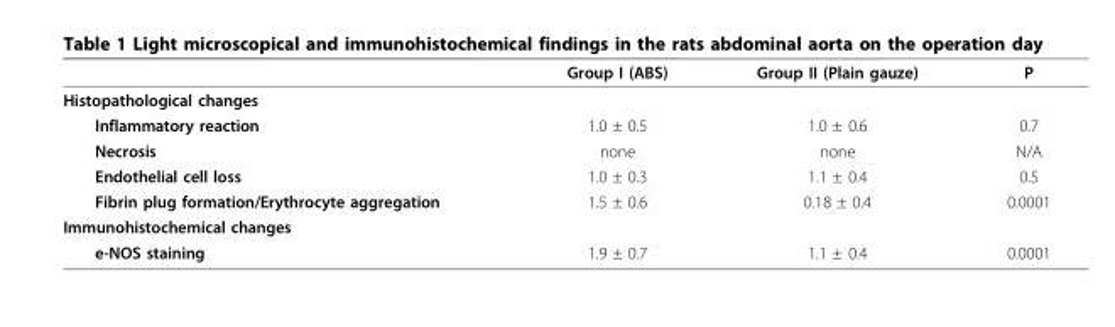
<table><thead><tr><td></td><td>Group I (ABS)</td><td>Group II (Plain gauze)</td><td>P</td></tr></thead><tbody><tr><td colspan="4">Histopathological changes</td></tr><tr><td>Inflammatory reaction</td><td>1.0 ± 0.5</td><td>1.0 ± 0.6</td><td>0.7</td></tr><tr><td>Necrosis</td><td>none</td><td>none</td><td>N/A</td></tr><tr><td>Endothelial cell loss</td><td>1.0 ± 0.3</td><td>1.1 ± 0.4</td><td>0.5</td></tr><tr><td>Fibrin plug formation/Erythrocyte aggregation</td><td>1.5 ± 0.6</td><td>0.18 ± 0.4</td><td>0.0001</td></tr><tr><td colspan="4">Immunohistochemical changes</td></tr><tr><td>e-NOS staining</td><td>1.9 ± 0.7</td><td>1.1 ± 0.4</td><td>0.0001</td></tr></tbody></table>